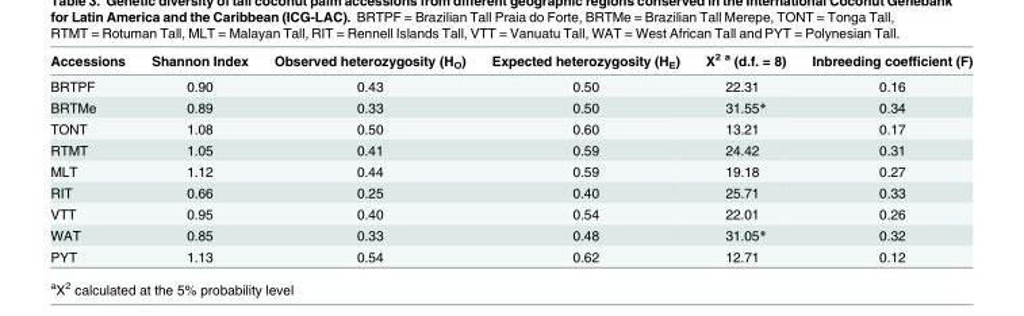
<table><thead><tr><td>Accessions</td><td>Shannon Index</td><td>Observed heterozygosity (H<sub>O</sub>)</td><td>Expected heterozygosity (H<sub>E</sub>)</td><td>X<sup>2 a</sup> (d.f. = 8)</td><td>Inbreeding coefficient (F)</td></tr></thead><tbody><tr><td>BRTPF</td><td>0.90</td><td>0.43</td><td>0.50</td><td>22.31</td><td>0.16</td></tr><tr><td>BRTMe</td><td>0.89</td><td>0.33</td><td>0.50</td><td>31.55*</td><td>0.34</td></tr><tr><td>TONT</td><td>1.08</td><td>0.50</td><td>0.60</td><td>13.21</td><td>0.17</td></tr><tr><td>RTMT</td><td>1.05</td><td>0.41</td><td>0.59</td><td>24.42</td><td>0.31</td></tr><tr><td>MLT</td><td>1.12</td><td>0.44</td><td>0.59</td><td>19.18</td><td>0.27</td></tr><tr><td>RIT</td><td>0.66</td><td>0.25</td><td>0.40</td><td>25.71</td><td>0.33</td></tr><tr><td>VTT</td><td>0.95</td><td>0.40</td><td>0.54</td><td>22.01</td><td>0.26</td></tr><tr><td>WAT</td><td>0.85</td><td>0.33</td><td>0.48</td><td>31.05*</td><td>0.32</td></tr><tr><td>PYT</td><td>1.13</td><td>0.54</td><td>0.62</td><td>12.71</td><td>0.12</td></tr></tbody></table>